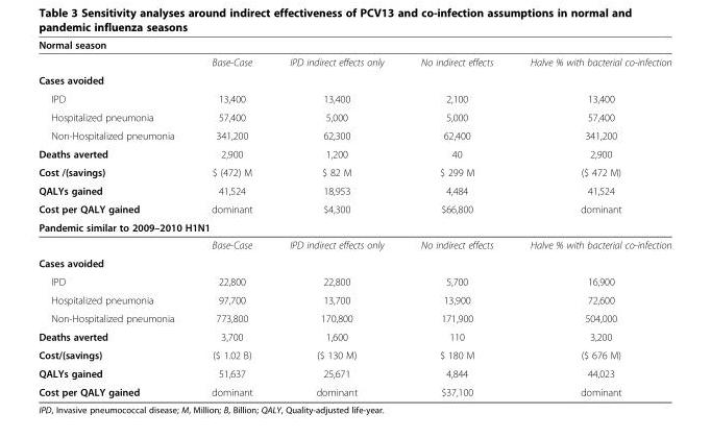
<table><thead><tr><td colspan="5">Normal season</td></tr><tr><td></td><td>Base-Case</td><td>IPD indirect effects only</td><td>No indirect effects</td><td>Halve % with bacterial co-infection</td></tr></thead><tbody><tr><td colspan="5">Cases avoided</td></tr><tr><td>IPD</td><td>13,400</td><td>13,400</td><td>2,100</td><td>13,400</td></tr><tr><td>Hospitalized pneumonia</td><td>57,400</td><td>5,000</td><td>5,000</td><td>57,400</td></tr><tr><td>Non-Hospitalized pneumonia</td><td>341,200</td><td>62,300</td><td>62,400</td><td>341,200</td></tr><tr><td>Deaths averted</td><td>2,900</td><td>1,200</td><td>40</td><td>2,900</td></tr><tr><td>Cost /(savings)</td><td>$ (472) M</td><td>$ 82 M</td><td>$ 299 M</td><td>($ 472 M)</td></tr><tr><td>QALYs gained</td><td>41,524</td><td>18,953</td><td>4,484</td><td>41,524</td></tr><tr><td>Cost per QALY gained</td><td>dominant</td><td>$4,300</td><td>$66,800</td><td>dominant</td></tr><tr><td colspan="5">Pandemic similar to 2009–2010 H1N1</td></tr><tr><td></td><td>Base-Case</td><td>IPD indirect effects only</td><td>No indirect effects</td><td>Halve % with bacterial co-infection</td></tr><tr><td colspan="5">Cases avoided</td></tr><tr><td>IPD</td><td>22,800</td><td>22,800</td><td>5,700</td><td>16,900</td></tr><tr><td>Hospitalized pneumonia</td><td>97,700</td><td>13,700</td><td>13,900</td><td>72,600</td></tr><tr><td>Non-Hospitalized pneumonia</td><td>773,800</td><td>170,800</td><td>171,900</td><td>504,000</td></tr><tr><td>Deaths averted</td><td>3,700</td><td>1,600</td><td>110</td><td>3,200</td></tr><tr><td>Cost/(savings)</td><td>($ 1.02 B)</td><td>($ 130 M)</td><td>$ 180 M</td><td>($ 676 M)</td></tr><tr><td>QALYs gained</td><td>51,637</td><td>25,671</td><td>4,844</td><td>44,023</td></tr><tr><td>Cost per QALY gained</td><td>dominant</td><td>dominant</td><td>$37,100</td><td>dominant</td></tr></tbody></table>